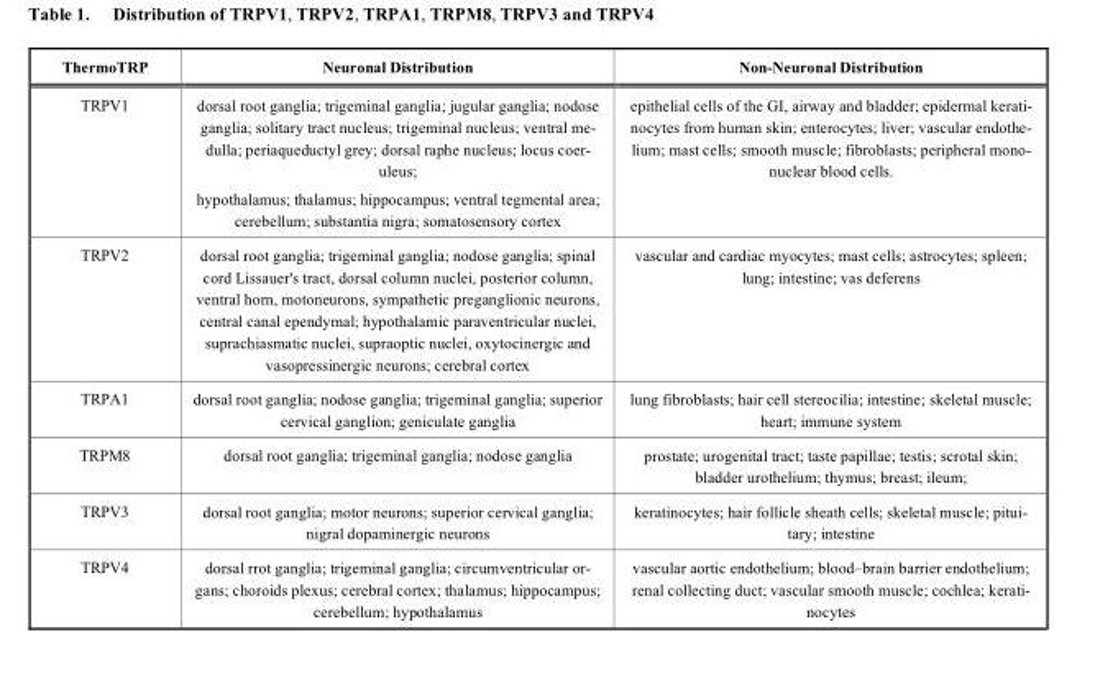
<table><thead><tr><td>ThermoTRP</td><td>Neuronal Distribution</td><td>Non-Neuronal Distribution</td></tr></thead><tbody><tr><td>TRPV1</td><td>dorsal root ganglia; trigeminal ganglia; jugular ganglia; nodose ganglia; solitary tract nucleus; trigeminal nucleus; ventral me- dulla; periaqueductyl grey; dorsal raphe nucleus; locus coer- uleus; hypothalamus; thalamus; hippocampus; ventral tegmental area; cerebellum; substantia nigra; somatosensory cortex</td><td>epithelial cells of the GI, airway and bladder; epidermal kerati- nocytes from human skin; enterocytes; liver; vascular endothe- lium; mast cells; smooth muscle; fibroblasts; peripheral mono- nuclear blood cells.</td></tr><tr><td>TRPV2</td><td>dorsal root ganglia; trigeminal ganglia; nodose ganglia; spinal cord Lissauer&#x27;s tract, dorsal column nuclei, posterior column, ventral horn, motoneurons, sympathetic preganglionic neurons, central canal ependymal; hypothalamic paraventricular nuclei, suprachiasmatic nuclei, supraoptic nuclei, oxytocinergic and vasopressinergic neurons; cerebral cortex</td><td>vascular and cardiac myocytes; mast cells; astrocytes; spleen; lung; intestine; vas deferens</td></tr><tr><td>TRPA1</td><td>dorsal root ganglia; nodose ganglia; trigeminal ganglia; superior cervical ganglion; geniculate ganglia</td><td>lung fibroblasts; hair cell stereocilia; intestine; skeletal muscle; heart; immune system</td></tr><tr><td>TRPM8</td><td>dorsal root ganglia; trigeminal ganglia; nodose ganglia</td><td>prostate; urogenital tract; taste papillae; testis; scrotal skin; bladder urothelium; thymus; breast; ileum;</td></tr><tr><td>TRPV3</td><td>dorsal root ganglia; motor neurons; superior cervical ganglia; nigral dopaminergic neurons</td><td>keratinocytes; hair follicle sheath cells; skeletal muscle; pitui- tary; intestine</td></tr><tr><td>TRPV4</td><td>dorsal rrot ganglia; trigeminal ganglia; circumventricular or- gans; choroids plexus; cerebral cortex; thalamus; hippocampus; cerebellum; hypothalamus</td><td>vascular aortic endothelium; blood–brain barrier endothelium; renal collecting duct; vascular smooth muscle; cochlea; kerati- nocytes</td></tr></tbody></table>